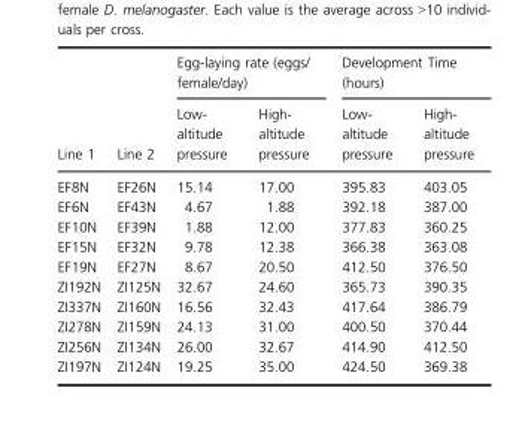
<table><thead><tr><td rowspan="2">Line 1</td><td rowspan="2">Line 2</td><td colspan="2">Egg-laying rate (eggs/ female/day)</td><td colspan="2">Development Time (hours)</td></tr><tr><td>Low- altitude pressure</td><td>High- altitude pressure</td><td>Low- altitude pressure</td><td>High- altitude pressure</td></tr></thead><tbody><tr><td>EF8N</td><td>EF26N</td><td>15.14</td><td>17.00</td><td>395.83</td><td>403.05</td></tr><tr><td>EF6N</td><td>EF43N</td><td>4.67</td><td>1.88</td><td>392.18</td><td>387.00</td></tr><tr><td>EF10N</td><td>EF39N</td><td>1.88</td><td>12.00</td><td>377.83</td><td>360.25</td></tr><tr><td>EF15N</td><td>EF32N</td><td>9.78</td><td>12.38</td><td>366.38</td><td>363.08</td></tr><tr><td>EF19N</td><td>EF27N</td><td>8.67</td><td>20.50</td><td>412.50</td><td>376.50</td></tr><tr><td>ZI192N</td><td>ZI125N</td><td>32.67</td><td>24.60</td><td>365.73</td><td>390.35</td></tr><tr><td>ZI337N</td><td>ZI160N</td><td>16.56</td><td>32.43</td><td>417.64</td><td>386.79</td></tr><tr><td>ZI278N</td><td>ZI159N</td><td>24.13</td><td>31.00</td><td>400.50</td><td>370.44</td></tr><tr><td>ZI256N</td><td>ZI134N</td><td>26.00</td><td>32.67</td><td>414.90</td><td>412.50</td></tr><tr><td>ZI197N</td><td>ZI124N</td><td>19.25</td><td>35.00</td><td>424.50</td><td>369.38</td></tr></tbody></table>